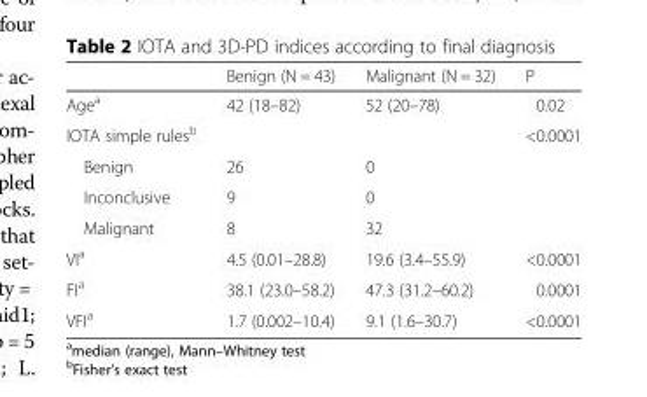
<table><thead><tr><td></td><td>Benign (N = 43)</td><td>Malignant (N = 32)</td><td>P</td></tr></thead><tbody><tr><td>Age<sup>a</sup></td><td>42 (18–82)</td><td>52 (20–78)</td><td>0.02</td></tr><tr><td>IOTA simple rules<sup>b</sup></td><td></td><td></td><td>&lt;0.0001</td></tr><tr><td>Benign</td><td>26</td><td>0</td><td></td></tr><tr><td>Inconclusive</td><td>9</td><td>0</td><td></td></tr><tr><td>Malignant</td><td>8</td><td>32</td><td></td></tr><tr><td>VI<sup>a</sup></td><td>4.5 (0.01–28.8)</td><td>19.6 (3.4–55.9)</td><td>&lt;0.0001</td></tr><tr><td>FI<sup>a</sup></td><td>38.1 (23.0–58.2)</td><td>47.3 (31.2–60.2)</td><td>0.0001</td></tr><tr><td>VFI<sup>a</sup></td><td>1.7 (0.002–10.4)</td><td>9.1 (1.6–30.7)</td><td>&lt;0.0001</td></tr></tbody></table>